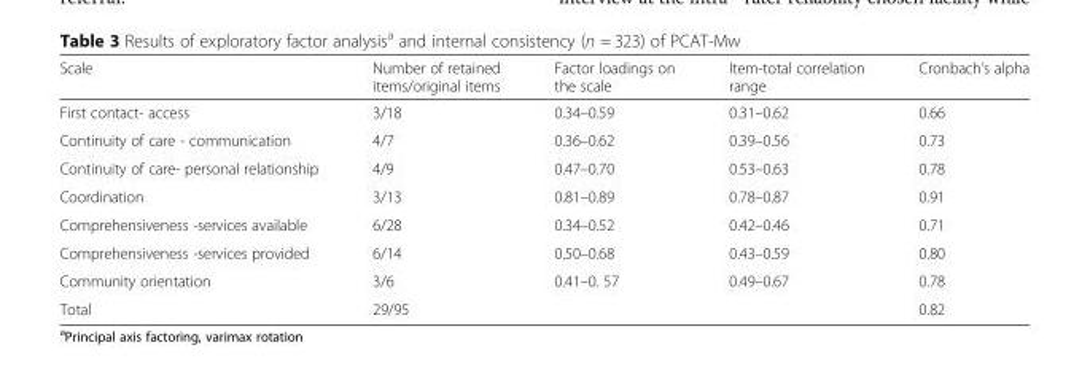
<table><thead><tr><td>Scale</td><td>Number of retained items/original items</td><td>Factor loadings on the scale</td><td>Item-total correlation range</td><td>Cronbach’s alpha</td></tr></thead><tbody><tr><td>First contact- access</td><td>3/18</td><td>0.34–0.59</td><td>0.31–0.62</td><td>0.66</td></tr><tr><td>Continuity of care - communication</td><td>4/7</td><td>0.36–0.62</td><td>0.39–0.56</td><td>0.73</td></tr><tr><td>Continuity of care- personal relationship</td><td>4/9</td><td>0.47–0.70</td><td>0.53–0.63</td><td>0.78</td></tr><tr><td>Coordination</td><td>3/13</td><td>0.81–0.89</td><td>0.78–0.87</td><td>0.91</td></tr><tr><td>Comprehensiveness -services available</td><td>6/28</td><td>0.34–0.52</td><td>0.42–0.46</td><td>0.71</td></tr><tr><td>Comprehensiveness -services provided</td><td>6/14</td><td>0.50–0.68</td><td>0.43–0.59</td><td>0.80</td></tr><tr><td>Community orientation</td><td>3/6</td><td>0.41–0. 57</td><td>0.49–0.67</td><td>0.78</td></tr><tr><td>Total</td><td>29/95</td><td></td><td></td><td>0.82</td></tr></tbody></table>